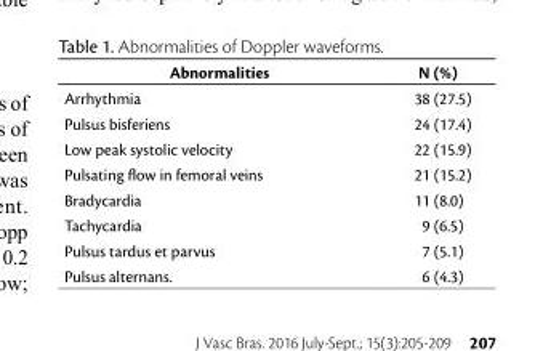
<table><thead><tr><td>Abnormalities</td><td>N (%)</td></tr></thead><tbody><tr><td>Arrhythmia</td><td>38 (27.5)</td></tr><tr><td>Pulsus bisferiens</td><td>24 (17.4)</td></tr><tr><td>Low peak systolic velocity</td><td>22 (15.9)</td></tr><tr><td>Pulsating flow in femoral veins</td><td>21 (15.2)</td></tr><tr><td>Bradycardia</td><td>11 (8.0)</td></tr><tr><td>Tachycardia</td><td>9 (6.5)</td></tr><tr><td>Pulsus tardus et parvus</td><td>7 (5.1)</td></tr><tr><td>Pulsus alternans.</td><td>6 (4.3)</td></tr></tbody></table>